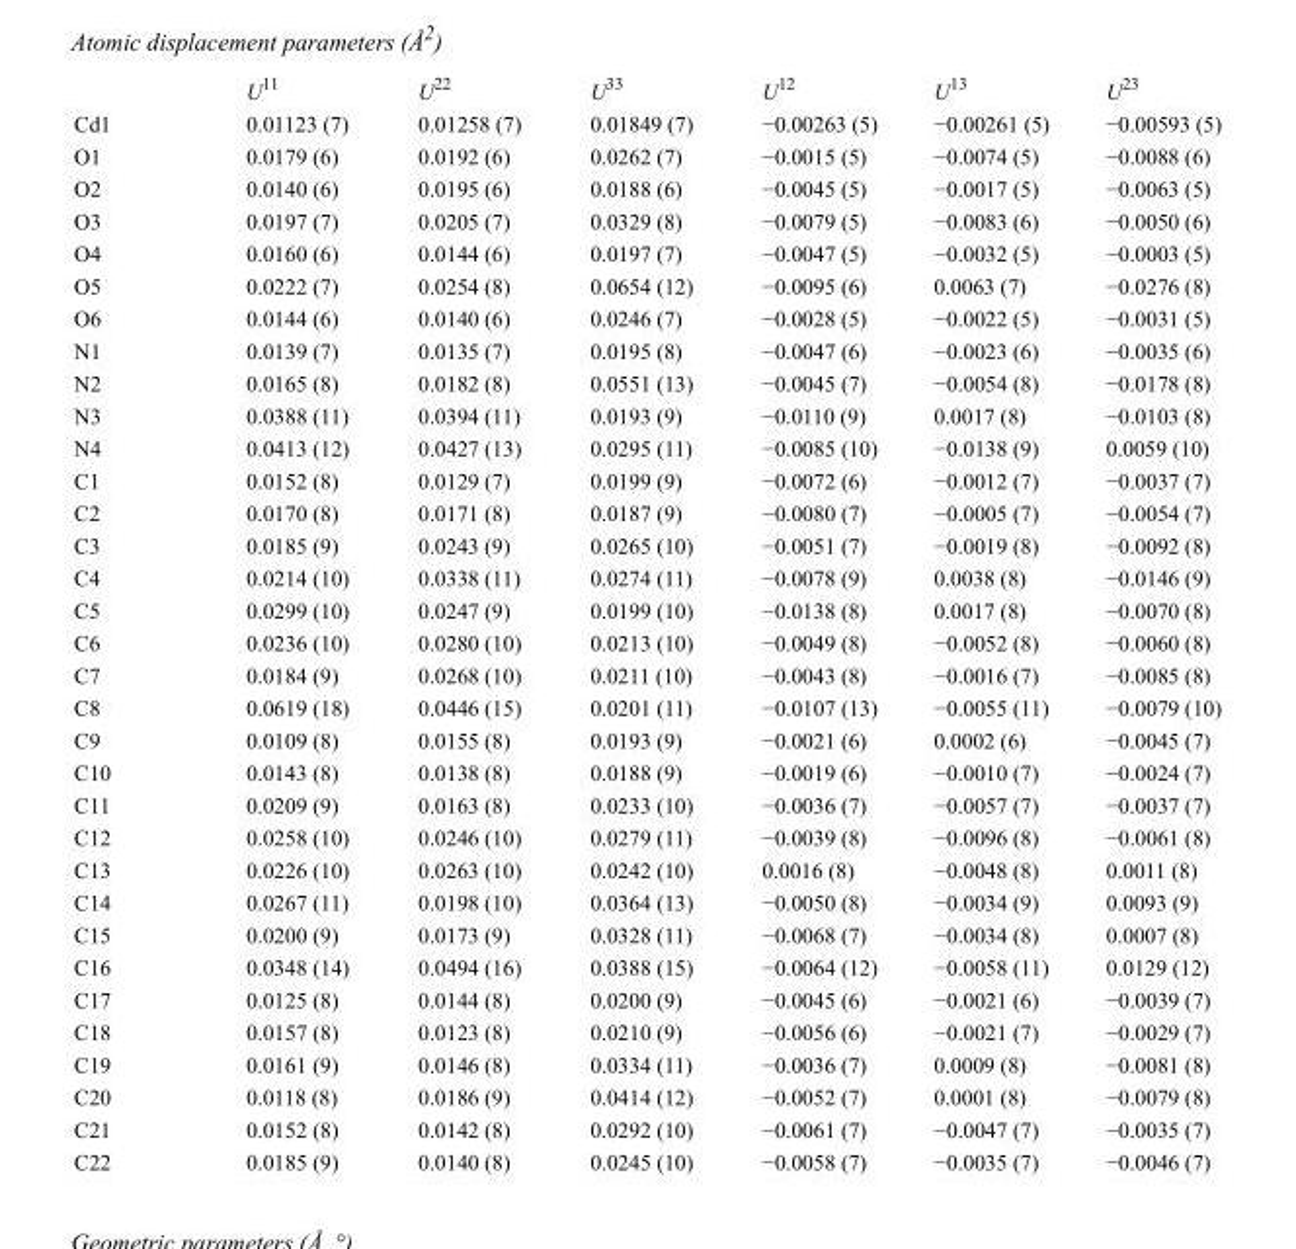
<table><thead><tr><td></td><td>U<sup>11</sup></td><td>U<sup>22</sup></td><td>U<sup>33</sup></td><td>U<sup>12</sup></td><td>U<sup>13</sup></td><td>U<sup>23</sup></td></tr></thead><tbody><tr><td>Cd1</td><td>0.01123 (7)</td><td>0.01258 (7)</td><td>0.01849 (7)</td><td>−0.00263 (5)</td><td>−0.00261 (5)</td><td>−0.00593 (5)</td></tr><tr><td>O1</td><td>0.0179 (6)</td><td>0.0192 (6)</td><td>0.0262 (7)</td><td>−0.0015 (5)</td><td>−0.0074 (5)</td><td>−0.0088 (6)</td></tr><tr><td>O2</td><td>0.0140 (6)</td><td>0.0195 (6)</td><td>0.0188 (6)</td><td>−0.0045 (5)</td><td>−0.0017 (5)</td><td>−0.0063 (5)</td></tr><tr><td>O3</td><td>0.0197 (7)</td><td>0.0205 (7)</td><td>0.0329 (8)</td><td>−0.0079 (5)</td><td>−0.0083 (6)</td><td>−0.0050 (6)</td></tr><tr><td>O4</td><td>0.0160 (6)</td><td>0.0144 (6)</td><td>0.0197 (7)</td><td>−0.0047 (5)</td><td>−0.0032 (5)</td><td>−0.0003 (5)</td></tr><tr><td>O5</td><td>0.0222 (7)</td><td>0.0254 (8)</td><td>0.0654 (12)</td><td>−0.0095 (6)</td><td>0.0063 (7)</td><td>−0.0276 (8)</td></tr><tr><td>O6</td><td>0.0144 (6)</td><td>0.0140 (6)</td><td>0.0246 (7)</td><td>−0.0028 (5)</td><td>−0.0022 (5)</td><td>−0.0031 (5)</td></tr><tr><td>N1</td><td>0.0139 (7)</td><td>0.0135 (7)</td><td>0.0195 (8)</td><td>−0.0047 (6)</td><td>−0.0023 (6)</td><td>−0.0035 (6)</td></tr><tr><td>N2</td><td>0.0165 (8)</td><td>0.0182 (8)</td><td>0.0551 (13)</td><td>−0.0045 (7)</td><td>−0.0054 (8)</td><td>−0.0178 (8)</td></tr><tr><td>N3</td><td>0.0388 (11)</td><td>0.0394 (11)</td><td>0.0193 (9)</td><td>−0.0110 (9)</td><td>0.0017 (8)</td><td>−0.0103 (8)</td></tr><tr><td>N4</td><td>0.0413 (12)</td><td>0.0427 (13)</td><td>0.0295 (11)</td><td>−0.0085 (10)</td><td>−0.0138 (9)</td><td>0.0059 (10)</td></tr><tr><td>C1</td><td>0.0152 (8)</td><td>0.0129 (7)</td><td>0.0199 (9)</td><td>−0.0072 (6)</td><td>−0.0012 (7)</td><td>−0.0037 (7)</td></tr><tr><td>C2</td><td>0.0170 (8)</td><td>0.0171 (8)</td><td>0.0187 (9)</td><td>−0.0080 (7)</td><td>−0.0005 (7)</td><td>−0.0054 (7)</td></tr><tr><td>C3</td><td>0.0185 (9)</td><td>0.0243 (9)</td><td>0.0265 (10)</td><td>−0.0051 (7)</td><td>−0.0019 (8)</td><td>−0.0092 (8)</td></tr><tr><td>C4</td><td>0.0214 (10)</td><td>0.0338 (11)</td><td>0.0274 (11)</td><td>−0.0078 (9)</td><td>0.0038 (8)</td><td>−0.0146 (9)</td></tr><tr><td>C5</td><td>0.0299 (10)</td><td>0.0247 (9)</td><td>0.0199 (10)</td><td>−0.0138 (8)</td><td>0.0017 (8)</td><td>−0.0070 (8)</td></tr><tr><td>C6</td><td>0.0236 (10)</td><td>0.0280 (10)</td><td>0.0213 (10)</td><td>−0.0049 (8)</td><td>−0.0052 (8)</td><td>−0.0060 (8)</td></tr><tr><td>C7</td><td>0.0184 (9)</td><td>0.0268 (10)</td><td>0.0211 (10)</td><td>−0.0043 (8)</td><td>−0.0016 (7)</td><td>−0.0085 (8)</td></tr><tr><td>C8</td><td>0.0619 (18)</td><td>0.0446 (15)</td><td>0.0201 (11)</td><td>−0.0107 (13)</td><td>−0.0055 (11)</td><td>−0.0079 (10)</td></tr><tr><td>C9</td><td>0.0109 (8)</td><td>0.0155 (8)</td><td>0.0193 (9)</td><td>−0.0021 (6)</td><td>0.0002 (6)</td><td>−0.0045 (7)</td></tr><tr><td>C10</td><td>0.0143 (8)</td><td>0.0138 (8)</td><td>0.0188 (9)</td><td>−0.0019 (6)</td><td>−0.0010 (7)</td><td>−0.0024 (7)</td></tr><tr><td>C11</td><td>0.0209 (9)</td><td>0.0163 (8)</td><td>0.0233 (10)</td><td>−0.0036 (7)</td><td>−0.0057 (7)</td><td>−0.0037 (7)</td></tr><tr><td>C12</td><td>0.0258 (10)</td><td>0.0246 (10)</td><td>0.0279 (11)</td><td>−0.0039 (8)</td><td>−0.0096 (8)</td><td>−0.0061 (8)</td></tr><tr><td>C13</td><td>0.0226 (10)</td><td>0.0263 (10)</td><td>0.0242 (10)</td><td>0.0016 (8)</td><td>−0.0048 (8)</td><td>0.0011 (8)</td></tr><tr><td>C14</td><td>0.0267 (11)</td><td>0.0198 (10)</td><td>0.0364 (13)</td><td>−0.0050 (8)</td><td>−0.0034 (9)</td><td>0.0093 (9)</td></tr><tr><td>C15</td><td>0.0200 (9)</td><td>0.0173 (9)</td><td>0.0328 (11)</td><td>−0.0068 (7)</td><td>−0.0034 (8)</td><td>0.0007 (8)</td></tr><tr><td>C16</td><td>0.0348 (14)</td><td>0.0494 (16)</td><td>0.0388 (15)</td><td>−0.0064 (12)</td><td>−0.0058 (11)</td><td>0.0129 (12)</td></tr><tr><td>C17</td><td>0.0125 (8)</td><td>0.0144 (8)</td><td>0.0200 (9)</td><td>−0.0045 (6)</td><td>−0.0021 (6)</td><td>−0.0039 (7)</td></tr><tr><td>C18</td><td>0.0157 (8)</td><td>0.0123 (8)</td><td>0.0210 (9)</td><td>−0.0056 (6)</td><td>−0.0021 (7)</td><td>−0.0029 (7)</td></tr><tr><td>C19</td><td>0.0161 (9)</td><td>0.0146 (8)</td><td>0.0334 (11)</td><td>−0.0036 (7)</td><td>0.0009 (8)</td><td>−0.0081 (8)</td></tr><tr><td>C20</td><td>0.0118 (8)</td><td>0.0186 (9)</td><td>0.0414 (12)</td><td>−0.0052 (7)</td><td>0.0001 (8)</td><td>−0.0079 (8)</td></tr><tr><td>C21</td><td>0.0152 (8)</td><td>0.0142 (8)</td><td>0.0292 (10)</td><td>−0.0061 (7)</td><td>−0.0047 (7)</td><td>−0.0035 (7)</td></tr><tr><td>C22</td><td>0.0185 (9)</td><td>0.0140 (8)</td><td>0.0245 (10)</td><td>−0.0058 (7)</td><td>−0.0035 (7)</td><td>−0.0046 (7)</td></tr></tbody></table>